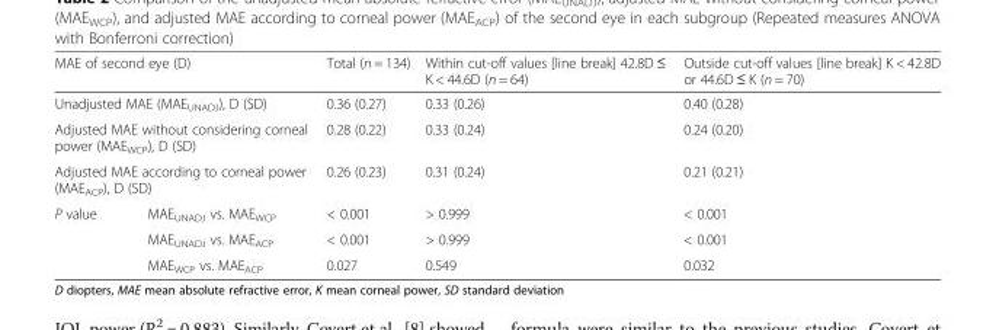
<table><thead><tr><td colspan="2">MAE of second eye (D)</td><td>Total (n = 134)</td><td>Within cut-off values [line break] 42.8D ≤ K &lt; 44.6D (n = 64)</td><td>Outside cut-off values [line break] K &lt; 42.8D or 44.6D ≤ K (n = 70)</td></tr></thead><tbody><tr><td colspan="2">Unadjusted MAE (MAE<sub>UNADJ</sub>), D (SD)</td><td>0.36 (0.27)</td><td>0.33 (0.26)</td><td>0.40 (0.28)</td></tr><tr><td colspan="2">Adjusted MAE without considering corneal power (MAE<sub>WCP</sub>), D (SD)</td><td>0.28 (0.22)</td><td>0.33 (0.24)</td><td>0.24 (0.20)</td></tr><tr><td colspan="2">Adjusted MAE according to corneal power (MAE<sub>ACP</sub>), D (SD)</td><td>0.26 (0.23)</td><td>0.31 (0.24)</td><td>0.21 (0.21)</td></tr><tr><td rowspan="3">P value</td><td>MAE<sub>UNADJ</sub> vs. MAE<sub>WCP</sub></td><td>&lt; 0.001</td><td>&gt; 0.999</td><td>&lt; 0.001</td></tr><tr><td>MAE<sub>UNADJ</sub> vs. MAE<sub>ACP</sub></td><td>&lt; 0.001</td><td>&gt; 0.999</td><td>&lt; 0.001</td></tr><tr><td>MAE<sub>WCP</sub> vs. MAE<sub>ACP</sub></td><td>0.027</td><td>0.549</td><td>0.032</td></tr></tbody></table>